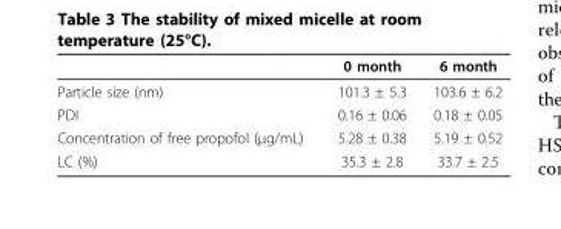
<table><thead><tr><td></td><td>0 month</td><td>6 month</td></tr></thead><tbody><tr><td>Particle size (nm)</td><td>101.3 ± 5.3</td><td>103.6 ± 6.2</td></tr><tr><td>PDI</td><td>0.16 ± 0.06</td><td>0.18 ± 0.05</td></tr><tr><td>Concentration of free propofol (μg/mL)</td><td>5.28 ± 0.38</td><td>5.19 ± 0.52</td></tr><tr><td>LC (%)</td><td>35.3 ± 2.8</td><td>33.7 ± 2.5</td></tr></tbody></table>